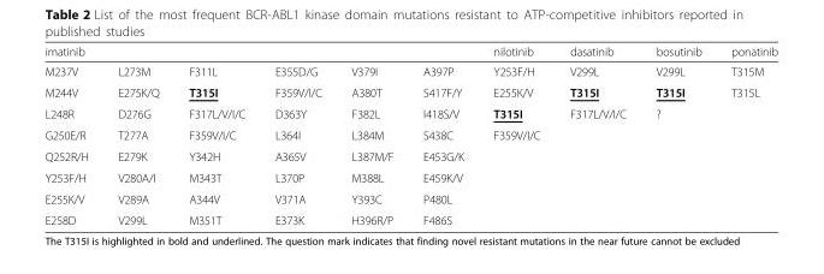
<table><thead><tr><td colspan="6">imatinib</td><td rowspan="2">nilotinib Y253F/H</td><td rowspan="2">dasatinib V299L</td><td rowspan="2">bosutinib V299L</td><td rowspan="2">ponatinib T315M</td></tr><tr><td>M237V</td><td>L273M</td><td>F311L</td><td>E355D/G</td><td>V379I</td><td>A397P</td></tr></thead><tbody><tr><td>M244V</td><td>E275K/Q</td><td>T315I</td><td>F359V/I/C</td><td>A380T</td><td>S417F/Y</td><td>E255K/V</td><td>T315I</td><td>T315I</td><td>T315L</td></tr><tr><td>L248R</td><td>D276G</td><td>F317L/V/I/C</td><td>D363Y</td><td>F382L</td><td>I418S/V</td><td>T315I</td><td>F317L/V/I/C</td><td>?</td><td></td></tr><tr><td>G250E/R</td><td>T277A</td><td>F359V/I/C</td><td>L364I</td><td>L384M</td><td>S438C</td><td>F359V/I/C</td><td></td><td></td><td></td></tr><tr><td>Q252R/H</td><td>E279K</td><td>Y342H</td><td>A365V</td><td>L387M/F</td><td>E453G/K</td><td></td><td></td><td></td><td></td></tr><tr><td>Y253F/H</td><td>V280A/I</td><td>M343T</td><td>L370P</td><td>M388L</td><td>E459K/V</td><td></td><td></td><td></td><td></td></tr><tr><td>E255K/V</td><td>V289A</td><td>A344V</td><td>V371A</td><td>Y393C</td><td>P480L</td><td></td><td></td><td></td><td></td></tr><tr><td>E258D</td><td>V299L</td><td>M351T</td><td>E373K</td><td>H396R/P</td><td>F486S</td><td></td><td></td><td></td><td></td></tr></tbody></table>